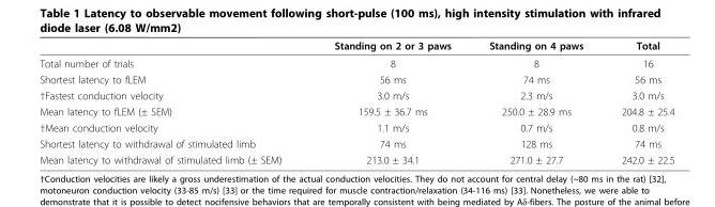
<table><thead><tr><td></td><td>Standing on 2 or 3 paws</td><td>Standing on 4 paws</td><td>Total</td></tr></thead><tbody><tr><td>Total number of trials</td><td>8</td><td>8</td><td>16</td></tr><tr><td>Shortest latency to fLEM</td><td>56 ms</td><td>74 ms</td><td>56 ms</td></tr><tr><td>†Fastest conduction velocity</td><td>3.0 m/s</td><td>2.3 m/s</td><td>3.0 m/s</td></tr><tr><td>Mean latency to fLEM (± SEM)</td><td>159.5 ± 36.7 ms</td><td>250.0 ± 28.9 ms</td><td>204.8 ± 25.4</td></tr><tr><td>†Mean conduction velocity</td><td>1.1 m/s</td><td>0.7 m/s</td><td>0.8 m/s</td></tr><tr><td>Shortest latency to withdrawal of stimulated limb</td><td>74 ms</td><td>128 ms</td><td>74 ms</td></tr><tr><td>Mean latency to withdrawal of stimulated limb (± SEM)</td><td>213.0 ± 34.1</td><td>271.0 ± 27.7</td><td>242.0 ± 22.5</td></tr></tbody></table>